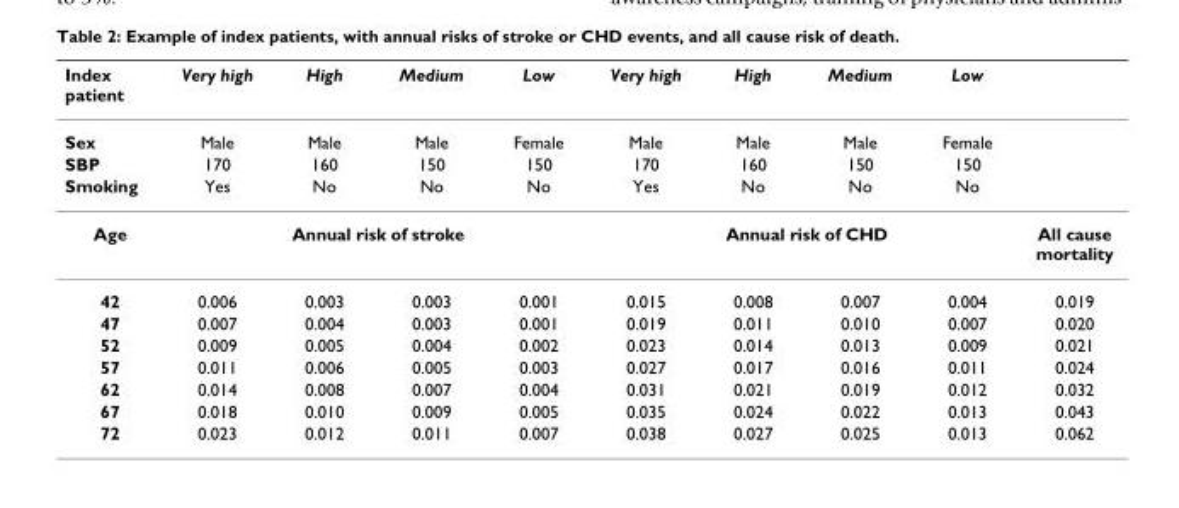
<table><thead><tr><td>Index patient</td><td>Very high</td><td>High</td><td>Medium</td><td>Low</td><td>Very high</td><td>High</td><td>Medium</td><td>Low</td><td></td></tr></thead><tbody><tr><td>Sex</td><td>Male</td><td>Male</td><td>Male</td><td>Female</td><td>Male</td><td>Male</td><td>Male</td><td>Female</td><td></td></tr><tr><td>SBP</td><td>170</td><td>160</td><td>150</td><td>150</td><td>170</td><td>160</td><td>150</td><td>150</td><td></td></tr><tr><td>Smoking</td><td>Yes</td><td>No</td><td>No</td><td>No</td><td>Yes</td><td>No</td><td>No</td><td>No</td><td></td></tr><tr><td>Age</td><td colspan="4">Annual risk of stroke</td><td colspan="4">Annual risk of CHD</td><td>All cause mortality</td></tr><tr><td>42</td><td>0.006</td><td>0.003</td><td>0.003</td><td>0.001</td><td>0.015</td><td>0.008</td><td>0.007</td><td>0.004</td><td>0.019</td></tr><tr><td>47</td><td>0.007</td><td>0.004</td><td>0.003</td><td>0.001</td><td>0.019</td><td>0.011</td><td>0.010</td><td>0.007</td><td>0.020</td></tr><tr><td>52</td><td>0.009</td><td>0.005</td><td>0.004</td><td>0.002</td><td>0.023</td><td>0.014</td><td>0.013</td><td>0.009</td><td>0.021</td></tr><tr><td>57</td><td>0.011</td><td>0.006</td><td>0.005</td><td>0.003</td><td>0.027</td><td>0.017</td><td>0.016</td><td>0.011</td><td>0.024</td></tr><tr><td>62</td><td>0.014</td><td>0.008</td><td>0.007</td><td>0.004</td><td>0.031</td><td>0.021</td><td>0.019</td><td>0.012</td><td>0.032</td></tr><tr><td>67</td><td>0.018</td><td>0.010</td><td>0.009</td><td>0.005</td><td>0.035</td><td>0.024</td><td>0.022</td><td>0.013</td><td>0.043</td></tr><tr><td>72</td><td>0.023</td><td>0.012</td><td>0.011</td><td>0.007</td><td>0.038</td><td>0.027</td><td>0.025</td><td>0.013</td><td>0.062</td></tr></tbody></table>